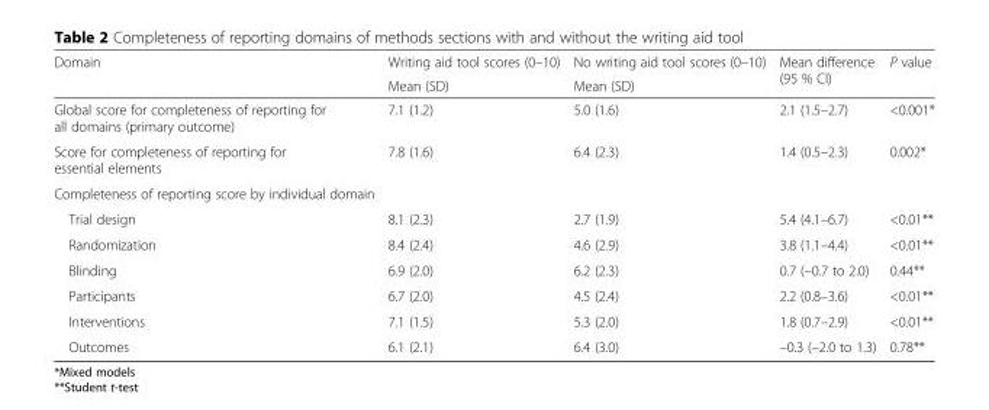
<table><thead><tr><td rowspan="2">Domain</td><td rowspan="2">Writing aid tool scores (0–10) Mean (SD)</td><td rowspan="2">No writing aid tool scores (0–10) Mean (SD)</td><td rowspan="2">Mean difference (95 % CI)</td><td rowspan="2">P value</td></tr><tr></tr></thead><tbody><tr><td>Global score for completeness of reporting for all domains (primary outcome)</td><td>7.1 (1.2)</td><td>5.0 (1.6)</td><td>2.1 (1.5–2.7)</td><td>&lt;0.001*</td></tr><tr><td>Score for completeness of reporting for essential elements</td><td>7.8 (1.6)</td><td>6.4 (2.3)</td><td>1.4 (0.5–2.3)</td><td>0.002*</td></tr><tr><td colspan="5">Completeness of reporting score by individual domain</td></tr><tr><td>Trial design</td><td>8.1 (2.3)</td><td>2.7 (1.9)</td><td>5.4 (4.1–6.7)</td><td>&lt;0.01**</td></tr><tr><td>Randomization</td><td>8.4 (2.4)</td><td>4.6 (2.9)</td><td>3.8 (1.1–4.4)</td><td>&lt;0.01**</td></tr><tr><td>Blinding</td><td>6.9 (2.0)</td><td>6.2 (2.3)</td><td>0.7 (–0.7 to 2.0)</td><td>0.44**</td></tr><tr><td>Participants</td><td>6.7 (2.0)</td><td>4.5 (2.4)</td><td>2.2 (0.8–3.6)</td><td>&lt;0.01**</td></tr><tr><td>Interventions</td><td>7.1 (1.5)</td><td>5.3 (2.0)</td><td>1.8 (0.7–2.9)</td><td>&lt;0.01**</td></tr><tr><td>Outcomes</td><td>6.1 (2.1)</td><td>6.4 (3.0)</td><td>–0.3 (–2.0 to 1.3)</td><td>0.78**</td></tr></tbody></table>